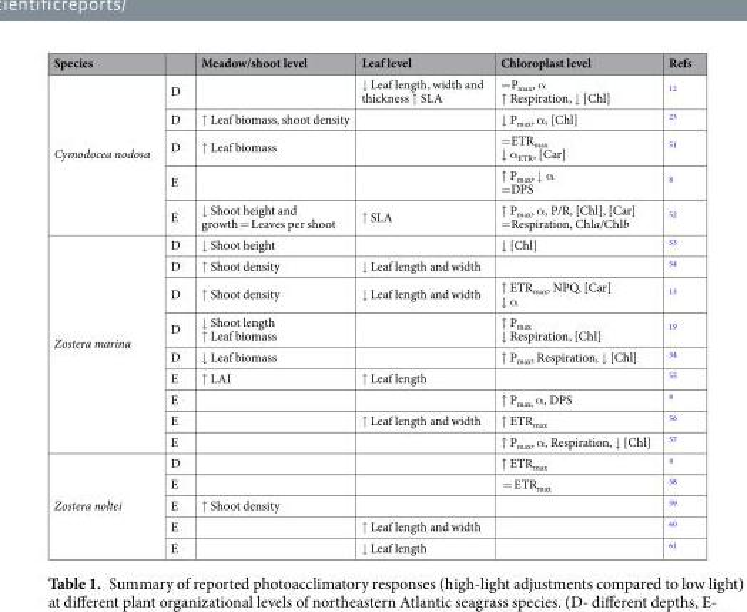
<table><thead><tr><td>Species</td><td></td><td>Meadow/shoot level</td><td>Leaf level</td><td>Chloroplast level</td><td>Refs</td></tr></thead><tbody><tr><td rowspan="5">Cymodocea nodosa</td><td>D</td><td></td><td>↓ Leaf length, width and thickness ↑ SLA</td><td>=P<sub>max</sub>, α ↑ Respiration, ↓ [Chl]</td><td><sup>12</sup></td></tr><tr><td>D</td><td>↑ Leaf biomass, shoot density</td><td></td><td>↓ P<sub>max</sub>, α, [Chl]</td><td><sup>23</sup></td></tr><tr><td>D</td><td>↑ Leaf biomass</td><td></td><td>=ETR<sub>max</sub> ↓ α<sub>ETR</sub>, [Car]</td><td><sup>51</sup></td></tr><tr><td>E</td><td></td><td></td><td>↑ P<sub>max</sub>, ↓ α =DPS</td><td><sup>8</sup></td></tr><tr><td>E</td><td>↓ Shoot height and growth = Leaves per shoot</td><td>↑ SLA</td><td>↑ P<sub>max</sub>, α, P/R, [Chl], [Car] =Respiration, Chla/Chlb</td><td><sup>52</sup></td></tr><tr><td rowspan="9">Zostera marina</td><td>D</td><td>↓ Shoot height</td><td></td><td>↓ [Chl]</td><td><sup>53</sup></td></tr><tr><td>D</td><td>↑ Shoot density</td><td>↓ Leaf length and width</td><td></td><td><sup>54</sup></td></tr><tr><td>D</td><td>↑ Shoot density</td><td>↓ Leaf length and width</td><td>↑ ETR<sub>max</sub>, NPQ, [Car] ↓ α</td><td><sup>13</sup></td></tr><tr><td>D</td><td>↓ Shoot length ↑ Leaf biomass</td><td></td><td>↑ P<sub>max</sub> ↓ Respiration, [Chl]</td><td><sup>19</sup></td></tr><tr><td>D</td><td>↓ Leaf biomass</td><td></td><td>↑ P<sub>max</sub>, Respiration, ↓ [Chl]</td><td><sup>34</sup></td></tr><tr><td>E</td><td>↑ LAI</td><td>↑ Leaf length</td><td></td><td><sup>55</sup></td></tr><tr><td>E</td><td></td><td></td><td>↑ P<sub>max,</sub> α, DPS</td><td><sup>8</sup></td></tr><tr><td>E</td><td></td><td>↑ Leaf length and width</td><td>↑ ETR<sub>max</sub></td><td><sup>56</sup></td></tr><tr><td>E</td><td></td><td></td><td>↑ P<sub>max</sub>, α, Respiration, ↓ [Chl]</td><td><sup>57</sup></td></tr><tr><td rowspan="5">Zostera noltei</td><td>D</td><td></td><td></td><td>↑ ETR<sub>max</sub></td><td><sup>4</sup></td></tr><tr><td>E</td><td></td><td></td><td>= ETR<sub>max</sub></td><td><sup>58</sup></td></tr><tr><td>E</td><td>↑ Shoot density</td><td></td><td></td><td><sup>59</sup></td></tr><tr><td>E</td><td></td><td>↑ Leaf length and width</td><td></td><td><sup>60</sup></td></tr><tr><td>E</td><td></td><td>↓ Leaf length</td><td></td><td><sup>61</sup></td></tr></tbody></table>